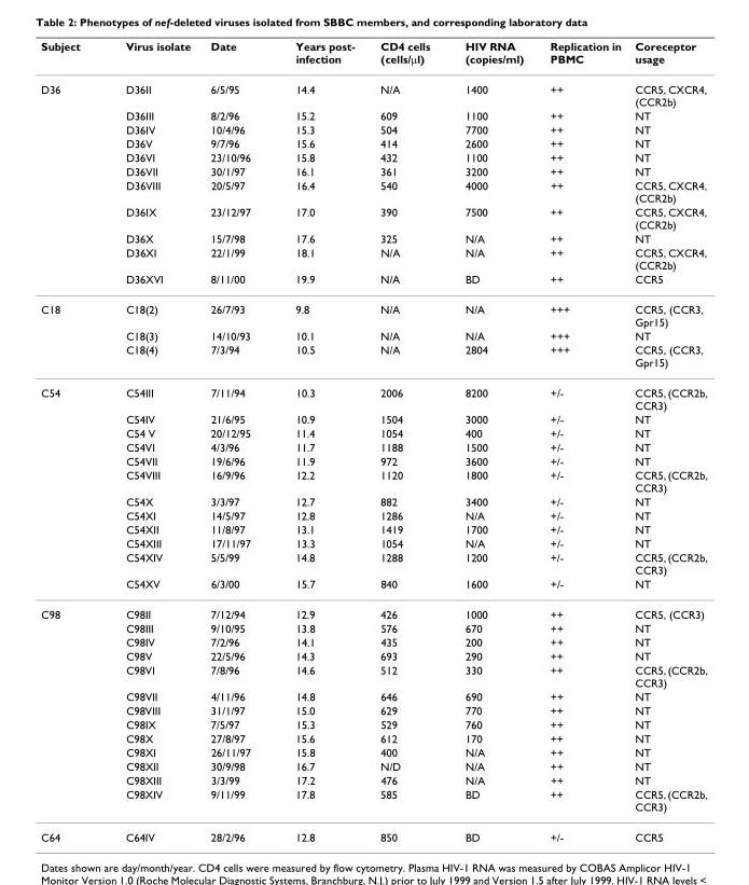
<table><thead><tr><td>Subject</td><td>Virus isolate</td><td>Date</td><td>Years post- infection</td><td>CD4 cells (cells/µl)</td><td>HIV RNA (copies/ml)</td><td>Replication in PBMC</td><td>Coreceptor usage</td></tr></thead><tbody><tr><td rowspan="11">D36</td><td>D36II</td><td>6/5/95</td><td>14.4</td><td>N/A</td><td>1400</td><td>++</td><td>CCR5, CXCR4, (CCR2b)</td></tr><tr><td>D36III</td><td>8/2/96</td><td>15.2</td><td>609</td><td>1100</td><td>++</td><td>NT</td></tr><tr><td>D36IV</td><td>10/4/96</td><td>15.3</td><td>504</td><td>7700</td><td>++</td><td>NT</td></tr><tr><td>D36V</td><td>9/7/96</td><td>15.6</td><td>414</td><td>2600</td><td>++</td><td>NT</td></tr><tr><td>D36VI</td><td>23/10/96</td><td>15.8</td><td>432</td><td>1100</td><td>++</td><td>NT</td></tr><tr><td>D36VII</td><td>30/1/97</td><td>16.1</td><td>361</td><td>3200</td><td>++</td><td>NT</td></tr><tr><td>D36VIII</td><td>20/5/97</td><td>16.4</td><td>540</td><td>4000</td><td>++</td><td>CCR5, CXCR4, (CCR2b)</td></tr><tr><td>D36IX</td><td>23/12/97</td><td>17.0</td><td>390</td><td>7500</td><td>++</td><td>CCR5, CXCR4, (CCR2b)</td></tr><tr><td>D36X</td><td>15/7/98</td><td>17.6</td><td>325</td><td>N/A</td><td>++</td><td>NT</td></tr><tr><td>D36XI</td><td>22/1/99</td><td>18.1</td><td>N/A</td><td>N/A</td><td>++</td><td>CCR5, CXCR4, (CCR2b)</td></tr><tr><td>D36XVI</td><td>8/11/00</td><td>19.9</td><td>N/A</td><td>BD</td><td>++</td><td>CCR5</td></tr><tr><td rowspan="3">C18</td><td>C18(2)</td><td>26/7/93</td><td>9.8</td><td>N/A</td><td>N/A</td><td>+++</td><td>CCR5, (CCR3, Gpr15)</td></tr><tr><td>C18(3)</td><td>14/10/93</td><td>10.1</td><td>N/A</td><td>N/A</td><td>+++</td><td>NT</td></tr><tr><td>C18(4)</td><td>7/3/94</td><td>10.5</td><td>N/A</td><td>2804</td><td>+++</td><td>CCR5, (CCR3, Gpr15)</td></tr><tr><td rowspan="12">C54</td><td>C54III</td><td>7/11/94</td><td>10.3</td><td>2006</td><td>8200</td><td>+/-</td><td>CCR5, (CCR2b, CCR3)</td></tr><tr><td>C54IV</td><td>21/6/95</td><td>10.9</td><td>1504</td><td>3000</td><td>+/-</td><td>NT</td></tr><tr><td>C54 V</td><td>20/12/95</td><td>11.4</td><td>1054</td><td>400</td><td>+/-</td><td>NT</td></tr><tr><td>C54VI</td><td>4/3/96</td><td>11.7</td><td>1188</td><td>1500</td><td>+/-</td><td>NT</td></tr><tr><td>C54VII</td><td>19/6/96</td><td>11.9</td><td>972</td><td>3600</td><td>+/-</td><td>NT</td></tr><tr><td>C54VIII</td><td>16/9/96</td><td>12.2</td><td>1120</td><td>1800</td><td>+/-</td><td>CCR5, (CCR2b, CCR3)</td></tr><tr><td>C54X</td><td>3/3/97</td><td>12.7</td><td>882</td><td>3400</td><td>+/-</td><td>NT</td></tr><tr><td>C54XI</td><td>14/5/97</td><td>12.8</td><td>1286</td><td>N/A</td><td>+/-</td><td>NT</td></tr><tr><td>C54XII</td><td>11/8/97</td><td>13.1</td><td>1419</td><td>1700</td><td>+/-</td><td>NT</td></tr><tr><td>C54XIII</td><td>17/11/97</td><td>13.3</td><td>1054</td><td>N/A</td><td>+/-</td><td>NT</td></tr><tr><td>C54XIV</td><td>5/5/99</td><td>14.8</td><td>1288</td><td>1200</td><td>+/-</td><td>CCR5, (CCR2b, CCR3)</td></tr><tr><td>C54XV</td><td>6/3/00</td><td>15.7</td><td>840</td><td>1600</td><td>+/-</td><td>NT</td></tr><tr><td rowspan="13">C98</td><td>C98II</td><td>7/12/94</td><td>12.9</td><td>426</td><td>1000</td><td>++</td><td>CCR5, (CCR3)</td></tr><tr><td>C98III</td><td>9/10/95</td><td>13.8</td><td>576</td><td>670</td><td>++</td><td>NT</td></tr><tr><td>C98IV</td><td>7/2/96</td><td>14.1</td><td>435</td><td>200</td><td>++</td><td>NT</td></tr><tr><td>C98V</td><td>22/5/96</td><td>14.3</td><td>693</td><td>290</td><td>++</td><td>NT</td></tr><tr><td>C98VI</td><td>7/8/96</td><td>14.6</td><td>512</td><td>330</td><td>++</td><td>CCR5, (CCR2b, CCR3)</td></tr><tr><td>C98VII</td><td>4/11/96</td><td>14.8</td><td>646</td><td>690</td><td>++</td><td>NT</td></tr><tr><td>C98VIII</td><td>31/1/97</td><td>15.0</td><td>629</td><td>770</td><td>++</td><td>NT</td></tr><tr><td>C98IX</td><td>7/5/97</td><td>15.3</td><td>529</td><td>760</td><td>++</td><td>NT</td></tr><tr><td>C98X</td><td>27/8/97</td><td>15.6</td><td>612</td><td>170</td><td>++</td><td>NT</td></tr><tr><td>C98XI</td><td>26/11/97</td><td>15.8</td><td>400</td><td>N/A</td><td>++</td><td>NT</td></tr><tr><td>C98XII</td><td>30/9/98</td><td>16.7</td><td>N/D</td><td>N/A</td><td>++</td><td>NT</td></tr><tr><td>C98XIII</td><td>3/3/99</td><td>17.2</td><td>476</td><td>N/A</td><td>++</td><td>NT</td></tr><tr><td>C98XIV</td><td>9/11/99</td><td>17.8</td><td>585</td><td>BD</td><td>++</td><td>CCR5, (CCR2b, CCR3)</td></tr><tr><td>C64</td><td>C64IV</td><td>28/2/96</td><td>12.8</td><td>850</td><td>BD</td><td>+/-</td><td>CCR5</td></tr></tbody></table>